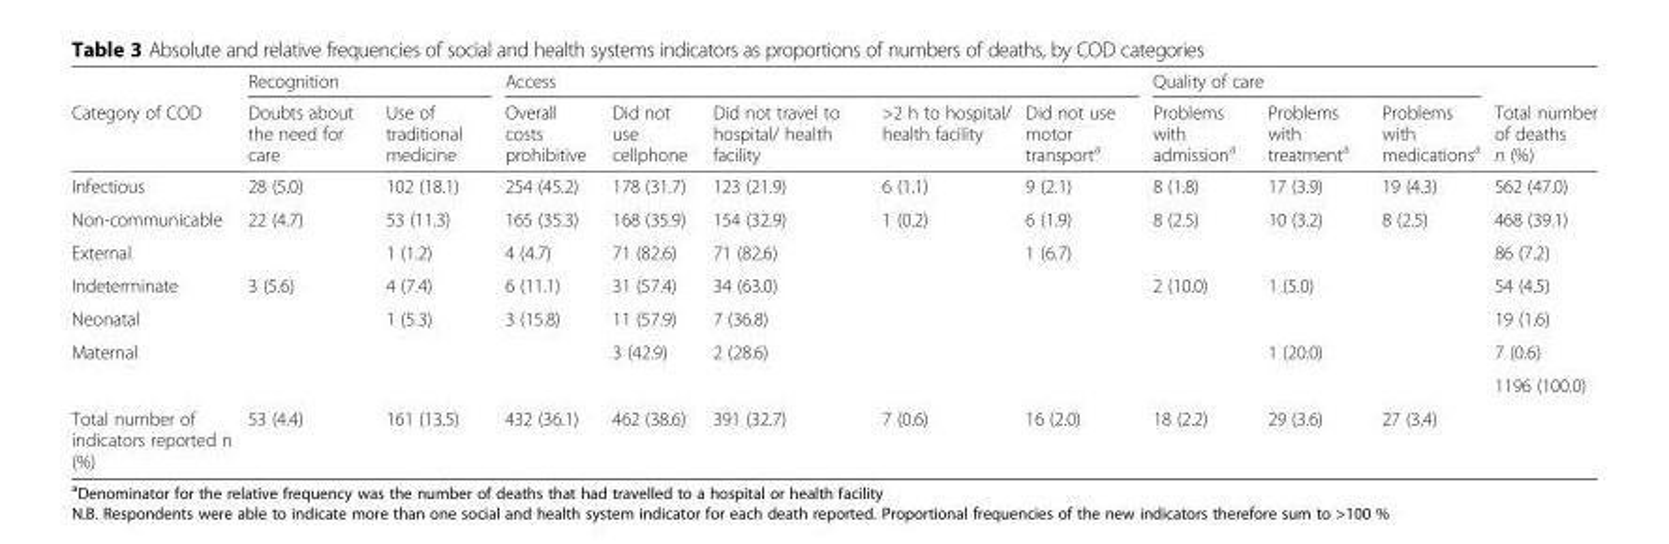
<table><thead><tr><td rowspan="2">Category of COD</td><td colspan="2">Recognition</td><td colspan="5">Access</td><td colspan="3">Quality of care</td><td rowspan="2">Total number of deaths n (%)</td></tr><tr><td>Doubts about the need for care</td><td>Use of traditional medicine</td><td>Overall costs prohibitive</td><td>Did not use cellphone</td><td>Did not travel to hospital/ health facility</td><td>&gt;2 h to hospital/ health facility</td><td>Did not use motor transport<sup>a</sup></td><td>Problems with admission<sup>a</sup></td><td>Problems with treatment<sup>a</sup></td><td>Problems with medications<sup>a</sup></td></tr></thead><tbody><tr><td>Infectious</td><td>28 (5.0)</td><td>102 (18.1)</td><td>254 (45.2)</td><td>178 (31.7)</td><td>123 (21.9)</td><td>6 (1.1)</td><td>9 (2.1)</td><td>8 (1.8)</td><td>17 (3.9)</td><td>19 (4.3)</td><td>562 (47.0)</td></tr><tr><td>Non-communicable</td><td>22 (4.7)</td><td>53 (11.3)</td><td>165 (35.3)</td><td>168 (35.9)</td><td>154 (32.9)</td><td>1 (0.2)</td><td>6 (1.9)</td><td>8 (2.5)</td><td>10 (3.2)</td><td>8 (2.5)</td><td>468 (39.1)</td></tr><tr><td>External</td><td></td><td>1 (1.2)</td><td>4 (4.7)</td><td>71 (82.6)</td><td>71 (82.6)</td><td></td><td>1 (6.7)</td><td></td><td></td><td></td><td>86 (7.2)</td></tr><tr><td>Indeterminate</td><td>3 (5.6)</td><td>4 (7.4)</td><td>6 (11.1)</td><td>31 (57.4)</td><td>34 (63.0)</td><td></td><td></td><td>2 (10.0)</td><td>1 (5.0)</td><td></td><td>54 (4.5)</td></tr><tr><td>Neonatal</td><td></td><td>1 (5.3)</td><td>3 (15.8)</td><td>11 (57.9)</td><td>7 (36.8)</td><td></td><td></td><td></td><td></td><td></td><td>19 (1.6)</td></tr><tr><td rowspan="2">Maternal</td><td></td><td></td><td></td><td>3 (42.9)</td><td>2 (28.6)</td><td></td><td></td><td></td><td>1 (20.0)</td><td></td><td>7 (0.6)</td></tr><tr><td></td><td></td><td></td><td></td><td></td><td></td><td></td><td></td><td></td><td></td><td>1196 (100.0)</td></tr><tr><td>Total number of indicators reported n (%)</td><td>53 (4.4)</td><td>161 (13.5)</td><td>432 (36.1)</td><td>462 (38.6)</td><td>391 (32.7)</td><td>7 (0.6)</td><td>16 (2.0)</td><td>18 (2.2)</td><td>29 (3.6)</td><td>27 (3.4)</td><td></td></tr></tbody></table>